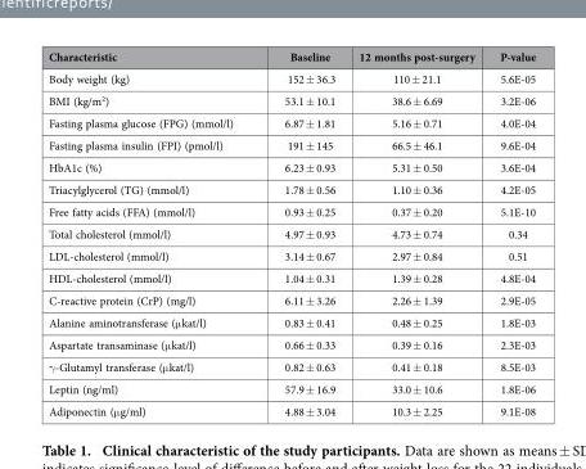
<table><thead><tr><td>Characteristic</td><td>Baseline</td><td>12 months post-surgery</td><td>P-value</td></tr></thead><tbody><tr><td>Body weight (kg)</td><td>152 ± 36.3</td><td>110 ± 21.1</td><td>5.6E-05</td></tr><tr><td>BMI (kg/m<sup>2</sup>)</td><td>53.1 ± 10.1</td><td>38.6 ± 6.69</td><td>3.2E-06</td></tr><tr><td>Fasting plasma glucose (FPG) (mmol/l)</td><td>6.87 ± 1.81</td><td>5.16 ± 0.71</td><td>4.0E-04</td></tr><tr><td>Fasting plasma insulin (FPI) (pmol/l)</td><td>191 ± 145</td><td>66.5 ± 46.1</td><td>9.6E-04</td></tr><tr><td>HbA1c (%)</td><td>6.23 ± 0.93</td><td>5.31 ± 0.50</td><td>3.6E-04</td></tr><tr><td>Triacylglycerol (TG) (mmol/l)</td><td>1.78 ± 0.56</td><td>1.10 ± 0.36</td><td>4.2E-05</td></tr><tr><td>Free fatty acids (FFA) (mmol/l)</td><td>0.93 ± 0.25</td><td>0.37 ± 0.20</td><td>5.1E-10</td></tr><tr><td>Total cholesterol (mmol/l)</td><td>4.97 ± 0.93</td><td>4.73 ± 0.74</td><td>0.34</td></tr><tr><td>LDL-cholesterol (mmol/l)</td><td>3.14 ± 0.67</td><td>2.97 ± 0.84</td><td>0.51</td></tr><tr><td>HDL-cholesterol (mmol/l)</td><td>1.04 ± 0.31</td><td>1.39 ± 0.28</td><td>4.8E-04</td></tr><tr><td>C-reactive protein (CrP) (mg/l)</td><td>6.11 ± 3.26</td><td>2.26 ± 1.39</td><td>2.9E-05</td></tr><tr><td>Alanine aminotransferase (μ kat/l)</td><td>0.83 ± 0.41</td><td>0.48 ± 0.25</td><td>1.8E-03</td></tr><tr><td>Aspartate transaminase (μ kat/l)</td><td>0.66 ± 0.33</td><td>0.39 ± 0.16</td><td>2.3E-03</td></tr><tr><td>γ -Glutamyl transferase (μ kat/l)</td><td>0.82 ± 0.63</td><td>0.41 ± 0.18</td><td>8.5E-03</td></tr><tr><td>Leptin (ng/ml)</td><td>57.9 ± 16.9</td><td>33.0 ± 10.6</td><td>1.8E-06</td></tr><tr><td>Adiponectin (μ g/ml)</td><td>4.88 ± 3.04</td><td>10.3 ± 2.25</td><td>9.1E-08</td></tr></tbody></table>